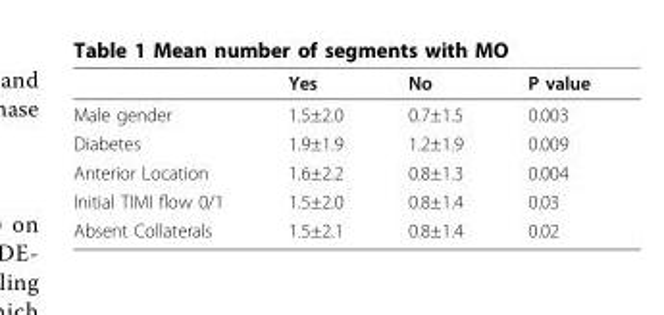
<table><thead><tr><td></td><td>Yes</td><td>No</td><td>P value</td></tr></thead><tbody><tr><td>Male gender</td><td>1.5±2.0</td><td>0.7±1.5</td><td>0.003</td></tr><tr><td>Diabetes</td><td>1.9±1.9</td><td>1.2±1.9</td><td>0.009</td></tr><tr><td>Anterior Location</td><td>1.6±2.2</td><td>0.8±1.3</td><td>0.004</td></tr><tr><td>Initial TIMI flow 0/1</td><td>1.5±2.0</td><td>0.8±1.4</td><td>0.03</td></tr><tr><td>Absent Collaterals</td><td>1.5±2.1</td><td>0.8±1.4</td><td>0.02</td></tr></tbody></table>